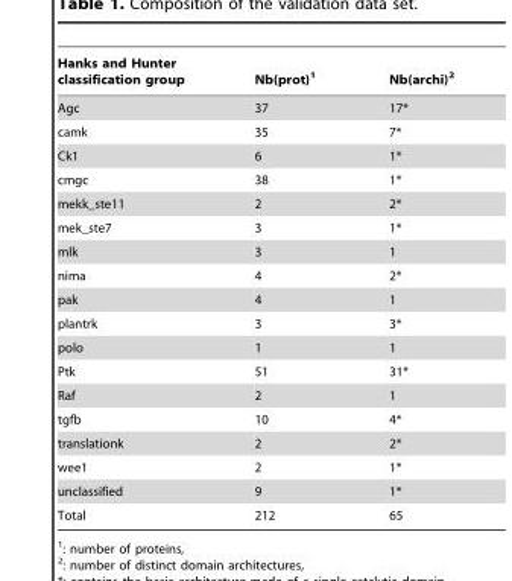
<table><thead><tr><td>Hanks and Hunter classification group</td><td>Nb(prot)<sup>1</sup></td><td>Nb(archi)<sup>2</sup></td></tr></thead><tbody><tr><td>Agc</td><td>37</td><td>17*</td></tr><tr><td>camk</td><td>35</td><td>7*</td></tr><tr><td>Ck1</td><td>6</td><td>1*</td></tr><tr><td>cmgc</td><td>38</td><td>1*</td></tr><tr><td>mekk_ste11</td><td>2</td><td>2*</td></tr><tr><td>mek_ste7</td><td>3</td><td>1*</td></tr><tr><td>mlk</td><td>3</td><td>1</td></tr><tr><td>nima</td><td>4</td><td>2*</td></tr><tr><td>pak</td><td>4</td><td>1</td></tr><tr><td>plantrk</td><td>3</td><td>3*</td></tr><tr><td>polo</td><td>1</td><td>1</td></tr><tr><td>Ptk</td><td>51</td><td>31*</td></tr><tr><td>Raf</td><td>2</td><td>1</td></tr><tr><td>tgfb</td><td>10</td><td>4*</td></tr><tr><td>translationk</td><td>2</td><td>2*</td></tr><tr><td>wee1</td><td>2</td><td>1*</td></tr><tr><td>unclassified</td><td>9</td><td>1*</td></tr><tr><td>Total</td><td>212</td><td>65</td></tr></tbody></table>